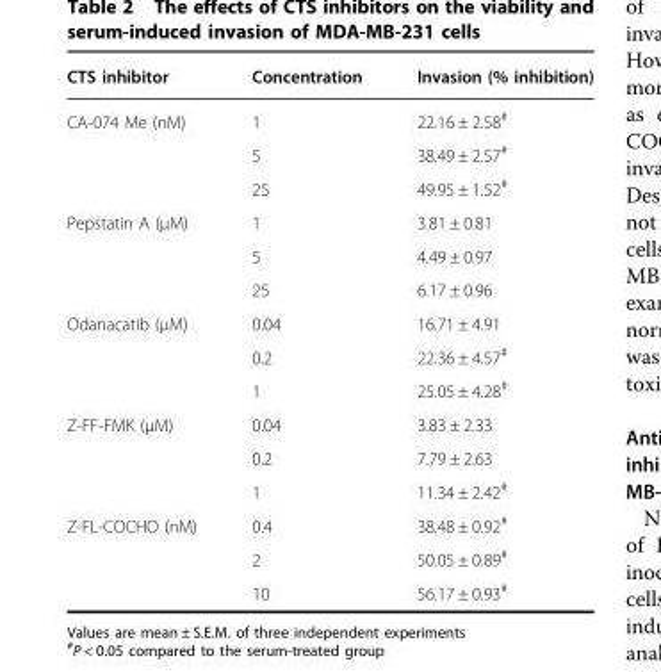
<table><thead><tr><td>CTS inhibitor</td><td>Concentration</td><td>Invasion (% inhibition)</td></tr></thead><tbody><tr><td rowspan="3">CA-074 Me (nM)</td><td>1</td><td>22.16 ± 2.58<sup>#</sup></td></tr><tr><td>5</td><td>38.49 ± 2.57<sup>#</sup></td></tr><tr><td>25</td><td>49.95 ± 1.52<sup>#</sup></td></tr><tr><td rowspan="3">Pepstatin A (μM)</td><td>1</td><td>3.81 ± 0.81</td></tr><tr><td>5</td><td>4.49 ± 0.97</td></tr><tr><td>25</td><td>6.17 ± 0.96</td></tr><tr><td rowspan="3">Odanacatib (μM)</td><td>0.04</td><td>16.71 ± 4.91</td></tr><tr><td>0.2</td><td>22.36 ± 4.57<sup>#</sup></td></tr><tr><td>1</td><td>25.05 ± 4.28<sup>#</sup></td></tr><tr><td rowspan="3">Z-FF-FMK (μM)</td><td>0.04</td><td>3.83 ± 2.33</td></tr><tr><td>0.2</td><td>7.79 ± 2.63</td></tr><tr><td>1</td><td>11.34 ± 2.42<sup>#</sup></td></tr><tr><td rowspan="3">Z-FL-COCHO (nM)</td><td>0.4</td><td>38.48 ± 0.92<sup>#</sup></td></tr><tr><td>2</td><td>50.05 ± 0.89<sup>#</sup></td></tr><tr><td>10</td><td>56.17 ± 0.93<sup>#</sup></td></tr></tbody></table>